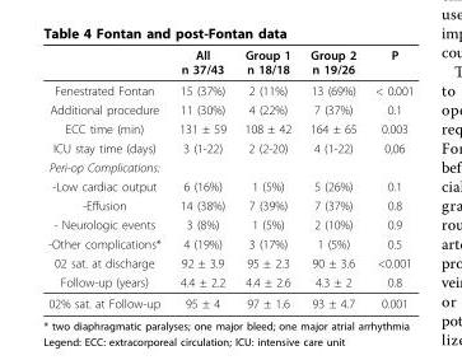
<table><thead><tr><td></td><td>All n 37/43</td><td>Group 1 n 18/18</td><td>Group 2 n 19/26</td><td>P</td></tr></thead><tbody><tr><td>Fenestrated Fontan</td><td>15 (37%)</td><td>2 (11%)</td><td>13 (69%)</td><td>&lt; 0.001</td></tr><tr><td>Additional procedure</td><td>11 (30%)</td><td>4 (22%)</td><td>7 (37%)</td><td>0.1</td></tr><tr><td>ECC time (min)</td><td>131 ± 59</td><td>108 ± 42</td><td>164 ± 65</td><td>0.003</td></tr><tr><td>ICU stay time (days)</td><td>3 (1-22)</td><td>2 (2-20)</td><td>4 (1-22)</td><td>0,06</td></tr><tr><td colspan="5">Peri-op Complications:</td></tr><tr><td>-Low cardiac output</td><td>6 (16%)</td><td>1 (5%)</td><td>5 (26%)</td><td>0.1</td></tr><tr><td>-Effusion</td><td>14 (38%)</td><td>7 (39%)</td><td>7 (37%)</td><td>0.8</td></tr><tr><td>- Neurologic events</td><td>3 (8%)</td><td>1 (5%)</td><td>2 (10%)</td><td>0.9</td></tr><tr><td>-Other complications*</td><td>4 (19%)</td><td>3 (17%)</td><td>1 (5%)</td><td>0.5</td></tr><tr><td>02 sat. at discharge</td><td>92 ± 3.9</td><td>95 ± 2.3</td><td>90 ± 3.6</td><td>&lt;0.001</td></tr><tr><td>Follow-up (years)</td><td>4.4 ± 2.2</td><td>4.4 ± 2.6</td><td>4.3 ± 2</td><td>0.8</td></tr><tr><td>02% sat. at Follow-up</td><td>95 ± 4</td><td>97 ± 1.6</td><td>93 ± 4.7</td><td>0.001</td></tr></tbody></table>